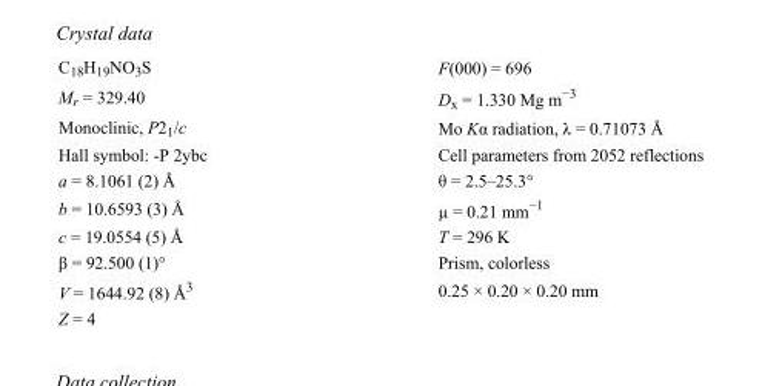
<table><tbody><tr><td>C<sub>18</sub>H<sub>19</sub>NO<sub>3</sub>S</td><td>F(000) = 696</td></tr><tr><td>M<sub>r</sub> = 329.40</td><td>D<sub>x</sub> = 1.330 Mg m<sup>−3</sup></td></tr><tr><td>Monoclinic, P2<sub>1</sub>/c</td><td>Mo Kα radiation, λ = 0.71073 Å</td></tr><tr><td>Hall symbol: -P 2ybc</td><td>Cell parameters from 2052 reflections</td></tr><tr><td>a = 8.1061 (2) Å</td><td>θ = 2.5–25.3°</td></tr><tr><td>b = 10.6593 (3) Å</td><td>µ = 0.21 mm<sup>−1</sup></td></tr><tr><td>c = 19.0554 (5) Å</td><td>T = 296 K</td></tr><tr><td>β = 92.500 (1)°</td><td>Prism, colorless</td></tr><tr><td>V = 1644.92 (8) Å<sup>3</sup></td><td>0.25 × 0.20 × 0.20 mm</td></tr><tr><td>Z = 4</td><td></td></tr></tbody></table>